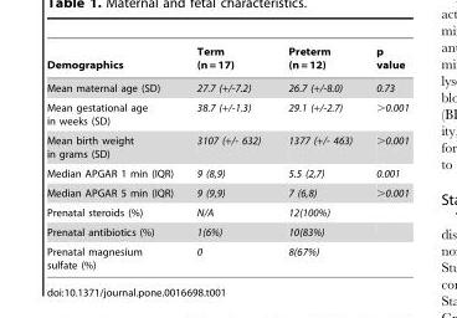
<table><thead><tr><td>Demographics</td><td>Term (n = 17)</td><td>Preterm (n = 12)</td><td>p value</td></tr></thead><tbody><tr><td>Mean maternal age (SD)</td><td>27.7 (+/-7.2)</td><td>26.7 (+/-8.0)</td><td>0.73</td></tr><tr><td>Mean gestational age in weeks (SD)</td><td>38.7 (+/-1.3)</td><td>29.1 (+/-2.7)</td><td>&gt;0.001</td></tr><tr><td>Mean birth weight in grams (SD)</td><td>3107 (+/- 632)</td><td>1377 (+/- 463)</td><td>&gt;0.001</td></tr><tr><td>Median APGAR 1 min (IQR)</td><td>9 (8,9)</td><td>5.5 (2,7)</td><td>0.001</td></tr><tr><td>Median APGAR 5 min (IQR)</td><td>9 (9,9)</td><td>7 (6,8)</td><td>&gt;0.001</td></tr><tr><td>Prenatal steroids (%)</td><td>N/A</td><td>12(100%)</td><td></td></tr><tr><td>Prenatal antibiotics (%)</td><td>1(6%)</td><td>10(83%)</td><td></td></tr><tr><td>Prenatal magnesium sulfate (%)</td><td>0</td><td>8(67%)</td><td></td></tr></tbody></table>